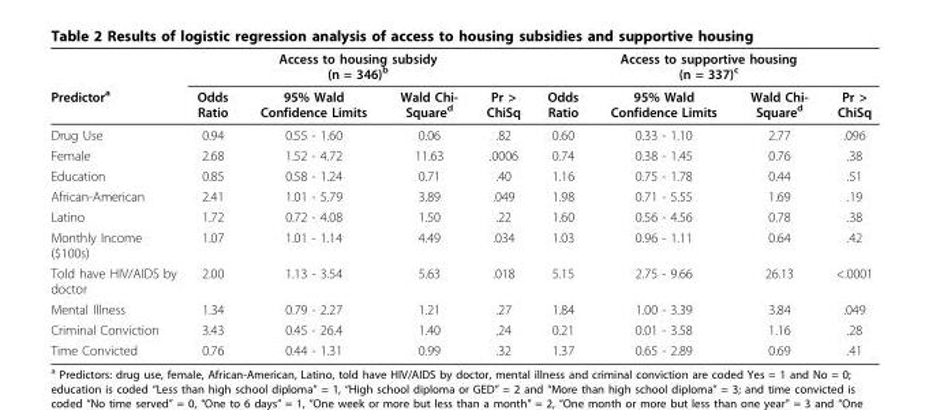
<table><thead><tr><td rowspan="2">Predictor<sup>a</sup></td><td colspan="4">Access to housing subsidy (n = 346)<sup>b</sup></td><td colspan="4">Access to supportive housing (n = 337)<sup>c</sup></td></tr><tr><td>Odds Ratio</td><td>95% Wald Confidence Limits</td><td>Wald Chi- Square<sup>d</sup></td><td>Pr &gt; ChiSq</td><td>Odds Ratio</td><td>95% Wald Confidence Limits</td><td>Wald Chi- Square<sup>d</sup></td><td>Pr &gt; ChiSq</td></tr></thead><tbody><tr><td>Drug Use</td><td>0.94</td><td>0.55 - 1.60</td><td>0.06</td><td>.82</td><td>0.60</td><td>0.33 - 1.10</td><td>2.77</td><td>.096</td></tr><tr><td>Female</td><td>2.68</td><td>1.52 - 4.72</td><td>11.63</td><td>.0006</td><td>0.74</td><td>0.38 - 1.45</td><td>0.76</td><td>.38</td></tr><tr><td>Education</td><td>0.85</td><td>0.58 - 1.24</td><td>0.71</td><td>.40</td><td>1.16</td><td>0.75 - 1.78</td><td>0.44</td><td>.51</td></tr><tr><td>African-American</td><td>2.41</td><td>1.01 - 5.79</td><td>3.89</td><td>.049</td><td>1.98</td><td>0.71 - 5.55</td><td>1.69</td><td>.19</td></tr><tr><td>Latino</td><td>1.72</td><td>0.72 - 4.08</td><td>1.50</td><td>.22</td><td>1.60</td><td>0.56 - 4.56</td><td>0.78</td><td>.38</td></tr><tr><td>Monthly Income ($100s)</td><td>1.07</td><td>1.01 - 1.14</td><td>4.49</td><td>.034</td><td>1.03</td><td>0.96 - 1.11</td><td>0.64</td><td>.42</td></tr><tr><td>Told have HIV/AIDS by doctor</td><td>2.00</td><td>1.13 - 3.54</td><td>5.63</td><td>.018</td><td>5.15</td><td>2.75 - 9.66</td><td>26.13</td><td>&lt;.0001</td></tr><tr><td>Mental Illness</td><td>1.34</td><td>0.79 - 2.27</td><td>1.21</td><td>.27</td><td>1.84</td><td>1.00 - 3.39</td><td>3.84</td><td>.049</td></tr><tr><td>Criminal Conviction</td><td>3.43</td><td>0.45 - 26.4</td><td>1.40</td><td>.24</td><td>0.21</td><td>0.01 - 3.58</td><td>1.16</td><td>.28</td></tr><tr><td>Time Convicted</td><td>0.76</td><td>0.44 - 1.31</td><td>0.99</td><td>.32</td><td>1.37</td><td>0.65 - 2.89</td><td>0.69</td><td>.41</td></tr></tbody></table>